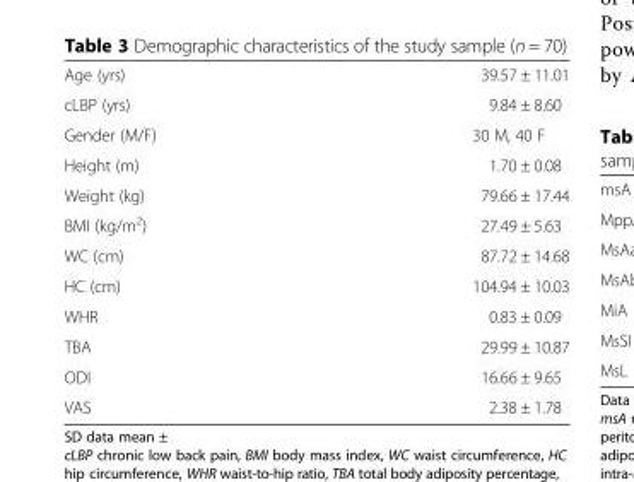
<table><tbody><tr><td>Age (yrs)</td><td>39.57 ± 11.01</td></tr><tr><td>cLBP (yrs)</td><td>9.84 ± 8.60</td></tr><tr><td>Gender (M/F)</td><td>30 M, 40 F</td></tr><tr><td>Height (m)</td><td>1.70 ± 0.08</td></tr><tr><td>Weight (kg)</td><td>79.66 ± 17.44</td></tr><tr><td>BMI (kg/m<sup>2</sup>)</td><td>27.49 ± 5.63</td></tr><tr><td>WC (cm)</td><td>87.72 ± 14.68</td></tr><tr><td>HC (cm)</td><td>104.94 ± 10.03</td></tr><tr><td>WHR</td><td>0.83 ± 0.09</td></tr><tr><td>TBA</td><td>29.99 ± 10.87</td></tr><tr><td>ODI</td><td>16.66 ± 9.65</td></tr><tr><td>VAS</td><td>2.38 ± 1.78</td></tr></tbody></table>